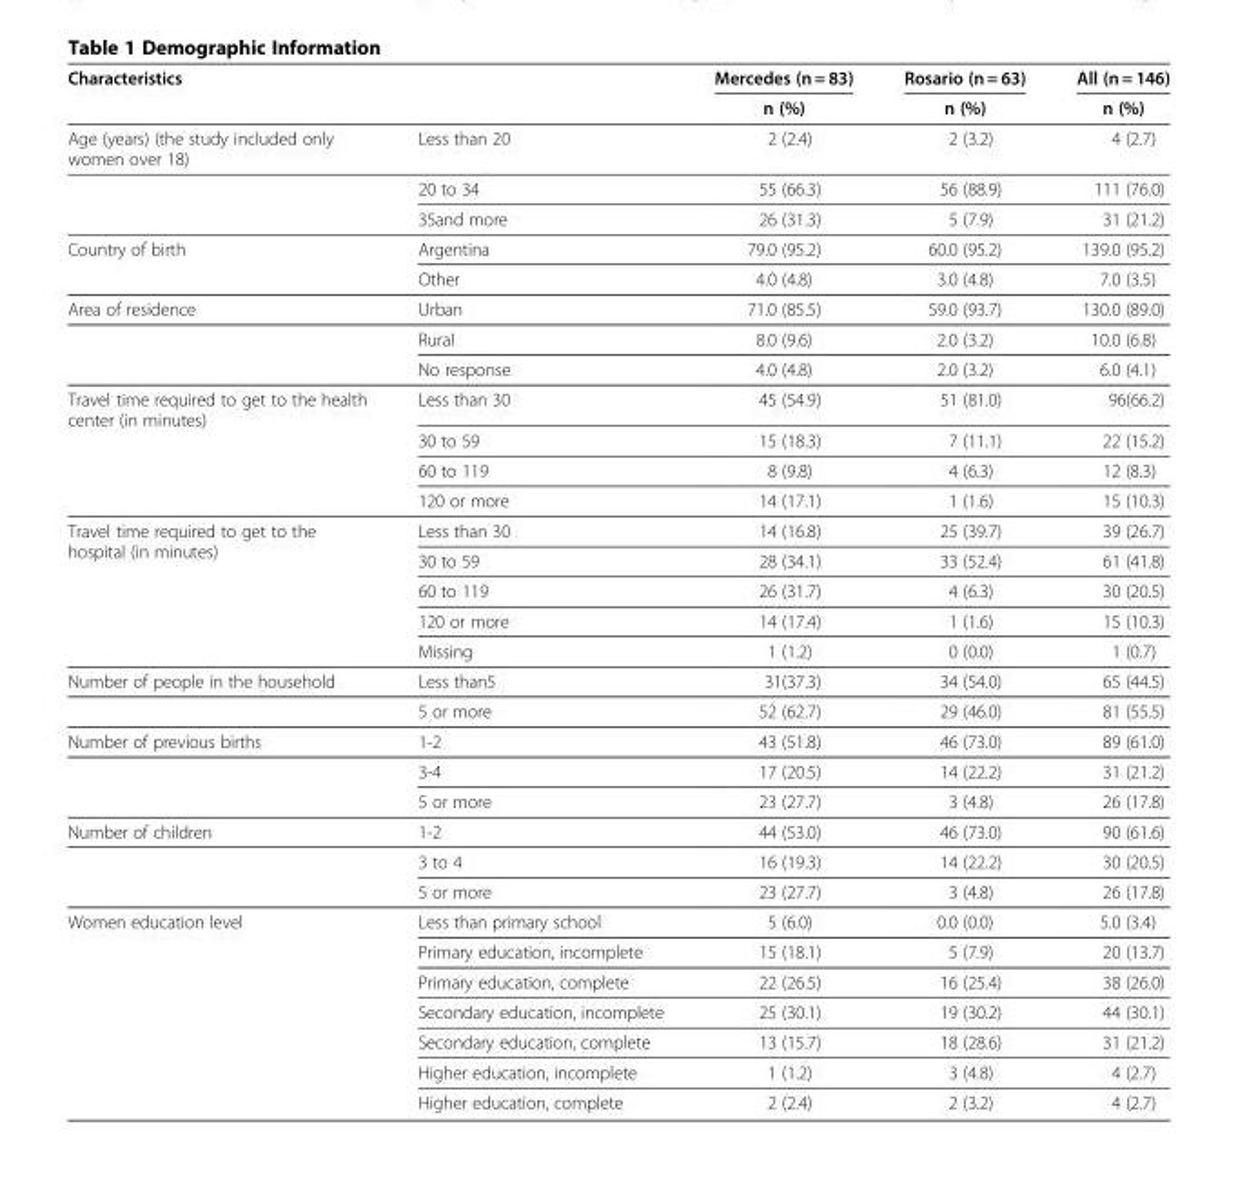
<table><thead><tr><td rowspan="2">Characteristics</td><td rowspan="2"></td><td rowspan="2">Mercedes (n = 83) n (%)</td><td rowspan="2">Rosario (n = 63) n (%)</td><td rowspan="2">All (n = 146) n (%)</td></tr><tr></tr></thead><tbody><tr><td rowspan="3">Age (years) (the study included only women over 18)</td><td>Less than 20</td><td>2 (2.4)</td><td>2 (3.2)</td><td>4 (2.7)</td></tr><tr><td>20 to 34</td><td>55 (66.3)</td><td>56 (88.9)</td><td>111 (76.0)</td></tr><tr><td>35and more</td><td>26 (31.3)</td><td>5 (7.9)</td><td>31 (21.2)</td></tr><tr><td rowspan="2">Country of birth</td><td>Argentina</td><td>79.0 (95.2)</td><td>60.0 (95.2)</td><td>139.0 (95.2)</td></tr><tr><td>Other</td><td>4.0 (4.8)</td><td>3.0 (4.8)</td><td>7.0 (3.5)</td></tr><tr><td rowspan="3">Area of residence</td><td>Urban</td><td>71.0 (85.5)</td><td>59.0 (93.7)</td><td>130.0 (89.0)</td></tr><tr><td>Rural</td><td>8.0 (9.6)</td><td>2.0 (3.2)</td><td>10.0 (6.8)</td></tr><tr><td>No response</td><td>4.0 (4.8)</td><td>2.0 (3.2)</td><td>6.0 (4.1)</td></tr><tr><td rowspan="4">Travel time required to get to the health center (in minutes)</td><td>Less than 30</td><td>45 (54.9)</td><td>51 (81.0)</td><td>96(66.2)</td></tr><tr><td>30 to 59</td><td>15 (18.3)</td><td>7 (11.1)</td><td>22 (15.2)</td></tr><tr><td>60 to 119</td><td>8 (9.8)</td><td>4 (6.3)</td><td>12 (8.3)</td></tr><tr><td>120 or more</td><td>14 (17.1)</td><td>1 (1.6)</td><td>15 (10.3)</td></tr><tr><td rowspan="5">Travel time required to get to the hospital (in minutes)</td><td>Less than 30</td><td>14 (16.8)</td><td>25 (39.7)</td><td>39 (26.7)</td></tr><tr><td>30 to 59</td><td>28 (34.1)</td><td>33 (52.4)</td><td>61 (41.8)</td></tr><tr><td>60 to 119</td><td>26 (31.7)</td><td>4 (6.3)</td><td>30 (20.5)</td></tr><tr><td>120 or more</td><td>14 (17.4)</td><td>1 (1.6)</td><td>15 (10.3)</td></tr><tr><td>Missing</td><td>1 (1.2)</td><td>0 (0.0)</td><td>1 (0.7)</td></tr><tr><td rowspan="2">Number of people in the household</td><td>Less than5</td><td>31(37.3)</td><td>34 (54.0)</td><td>65 (44.5)</td></tr><tr><td>5 or more</td><td>52 (62.7)</td><td>29 (46.0)</td><td>81 (55.5)</td></tr><tr><td rowspan="3">Number of previous births</td><td>1-2</td><td>43 (51.8)</td><td>46 (73.0)</td><td>89 (61.0)</td></tr><tr><td>3-4</td><td>17 (20.5)</td><td>14 (22.2)</td><td>31 (21.2)</td></tr><tr><td>5 or more</td><td>23 (27.7)</td><td>3 (4.8)</td><td>26 (17.8)</td></tr><tr><td rowspan="3">Number of children</td><td>1-2</td><td>44 (53.0)</td><td>46 (73.0)</td><td>90 (61.6)</td></tr><tr><td>3 to 4</td><td>16 (19.3)</td><td>14 (22.2)</td><td>30 (20.5)</td></tr><tr><td>5 or more</td><td>23 (27.7)</td><td>3 (4.8)</td><td>26 (17.8)</td></tr><tr><td rowspan="7">Women education level</td><td>Less than primary school</td><td>5 (6.0)</td><td>0.0 (0.0)</td><td>5.0 (3.4)</td></tr><tr><td>Primary education, incomplete</td><td>15 (18.1)</td><td>5 (7.9)</td><td>20 (13.7)</td></tr><tr><td>Primary education, complete</td><td>22 (26.5)</td><td>16 (25.4)</td><td>38 (26.0)</td></tr><tr><td>Secondary education, incomplete</td><td>25 (30.1)</td><td>19 (30.2)</td><td>44 (30.1)</td></tr><tr><td>Secondary education, complete</td><td>13 (15.7)</td><td>18 (28.6)</td><td>31 (21.2)</td></tr><tr><td>Higher education, incomplete</td><td>1 (1.2)</td><td>3 (4.8)</td><td>4 (2.7)</td></tr><tr><td>Higher education, complete</td><td>2 (2.4)</td><td>2 (3.2)</td><td>4 (2.7)</td></tr></tbody></table>